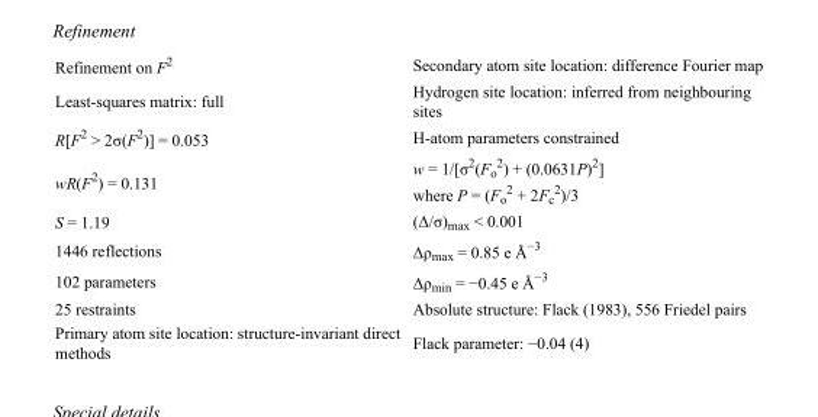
<table><tbody><tr><td>Refinement on F<sup>2</sup></td><td>Secondary atom site location: difference Fourier map</td></tr><tr><td>Least-squares matrix: full</td><td>Hydrogen site location: inferred from neighbouring sites</td></tr><tr><td>R[F<sup>2</sup> &gt; 2σ(F<sup>2</sup>)] = 0.053</td><td>H-atom parameters constrained</td></tr><tr><td>wR(F<sup>2</sup>) = 0.131</td><td>w = 1/[σ<sup>2</sup>(F<sub>o</sub> <sup>2</sup>) + (0.0631P)<sup>2</sup>] where P = (F<sub>o</sub> <sup>2</sup> + 2F<sub>c</sub> <sup>2</sup>)/3</td></tr><tr><td>S = 1.19</td><td>(Δ/σ)<sub>max</sub> &lt; 0.001</td></tr><tr><td>1446 reflections</td><td>Δρ<sub>max</sub> = 0.85 e Å<sup>−3</sup></td></tr><tr><td>102 parameters</td><td>Δρ<sub>min</sub> = −0.45 e Å<sup>−3</sup></td></tr><tr><td>25 restraints</td><td>Absolute structure: Flack (1983), 556 Friedel pairs</td></tr><tr><td>Primary atom site location: structure-invariant direct methods</td><td>Flack parameter: −0.04 (4)</td></tr></tbody></table>